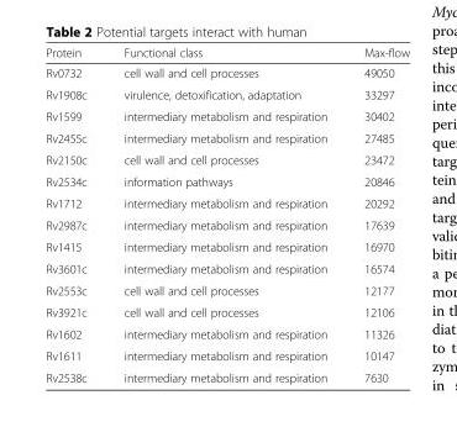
<table><thead><tr><td>Protein</td><td>Functional class</td><td>Max-flow</td></tr></thead><tbody><tr><td>Rv0732</td><td>cell wall and cell processes</td><td>49050</td></tr><tr><td>Rv1908c</td><td>virulence, detoxification, adaptation</td><td>33297</td></tr><tr><td>Rv1599</td><td>intermediary metabolism and respiration</td><td>30402</td></tr><tr><td>Rv2455c</td><td>intermediary metabolism and respiration</td><td>27485</td></tr><tr><td>Rv2150c</td><td>cell wall and cell processes</td><td>23472</td></tr><tr><td>Rv2534c</td><td>information pathways</td><td>20846</td></tr><tr><td>Rv1712</td><td>intermediary metabolism and respiration</td><td>20292</td></tr><tr><td>Rv2987c</td><td>intermediary metabolism and respiration</td><td>17639</td></tr><tr><td>Rv1415</td><td>intermediary metabolism and respiration</td><td>16970</td></tr><tr><td>Rv3601c</td><td>intermediary metabolism and respiration</td><td>16574</td></tr><tr><td>Rv2553c</td><td>cell wall and cell processes</td><td>12177</td></tr><tr><td>Rv3921c</td><td>cell wall and cell processes</td><td>12106</td></tr><tr><td>Rv1602</td><td>intermediary metabolism and respiration</td><td>11326</td></tr><tr><td>Rv1611</td><td>intermediary metabolism and respiration</td><td>10147</td></tr><tr><td>Rv2538c</td><td>intermediary metabolism and respiration</td><td>7630</td></tr></tbody></table>